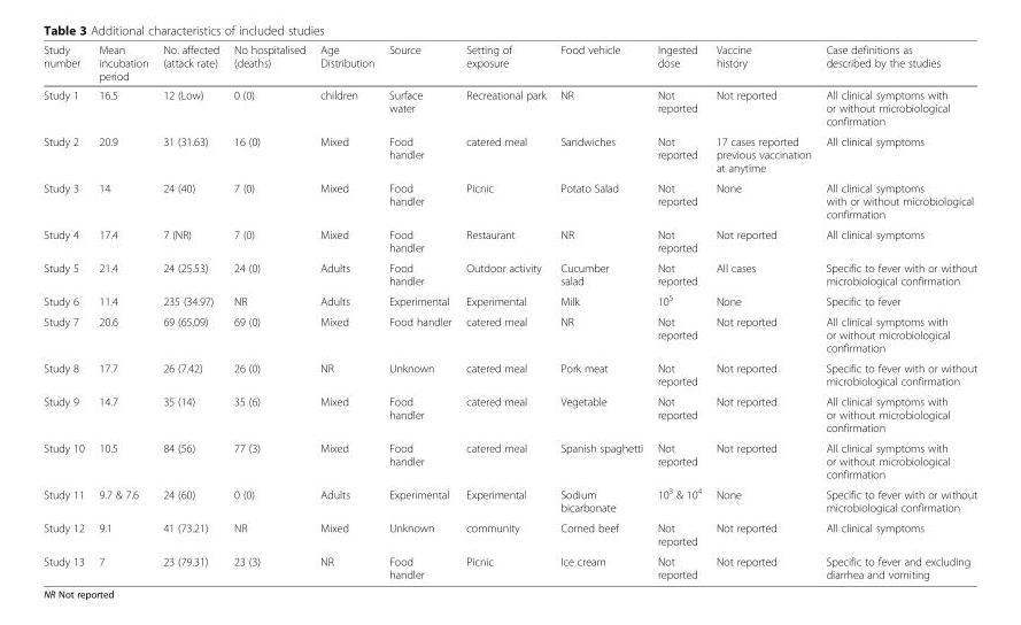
<table><thead><tr><td>Study number</td><td>Mean incubation period</td><td>No. affected (attack rate)</td><td>No hospitalised (deaths)</td><td>Age Distribution</td><td>Source</td><td>Setting of exposure</td><td>Food vehicle</td><td>Ingested dose</td><td>Vaccine history</td><td>Case definitions as described by the studies</td></tr></thead><tbody><tr><td>Study 1</td><td>16.5</td><td>12 (Low)</td><td>0 (0)</td><td>children</td><td>Surface water</td><td>Recreational park</td><td>NR</td><td>Not reported</td><td>Not reported</td><td>All clinical symptoms with or without microbiological confirmation</td></tr><tr><td>Study 2</td><td>20.9</td><td>31 (31.63)</td><td>16 (0)</td><td>Mixed</td><td>Food handler</td><td>catered meal</td><td>Sandwiches</td><td>Not reported</td><td>17 cases reported previous vaccination at anytime</td><td>All clinical symptoms</td></tr><tr><td>Study 3</td><td>14</td><td>24 (40)</td><td>7 (0)</td><td>Mixed</td><td>Food handler</td><td>Picnic</td><td>Potato Salad</td><td>Not reported</td><td>None</td><td>All clinical symptoms with or without microbiological confirmation</td></tr><tr><td>Study 4</td><td>17.4</td><td>7 (NR)</td><td>7 (0)</td><td>Mixed</td><td>Food handler</td><td>Restaurant</td><td>NR</td><td>Not reported</td><td>Not reported</td><td>All clinical symptoms</td></tr><tr><td>Study 5</td><td>21.4</td><td>24 (25.53)</td><td>24 (0)</td><td>Adults</td><td>Food handler</td><td>Outdoor activity</td><td>Cucumber salad</td><td>Not reported</td><td>All cases</td><td>Specific to fever with or without microbiological confirmation</td></tr><tr><td>Study 6</td><td>11.4</td><td>235 (34.97)</td><td>NR</td><td>Adults</td><td>Experimental</td><td>Experimental</td><td>Milk</td><td>10<sup>5</sup></td><td>None</td><td>Specific to fever</td></tr><tr><td>Study 7</td><td>20.6</td><td>69 (65.09)</td><td>69 (0)</td><td>Mixed</td><td>Food handler</td><td>catered meal</td><td>NR</td><td>Not reported</td><td>Not reported</td><td>All clinical symptoms with or without microbiological confirmation</td></tr><tr><td>Study 8</td><td>17.7</td><td>26 (7.42)</td><td>26 (0)</td><td>NR</td><td>Unknown</td><td>catered meal</td><td>Pork meat</td><td>Not reported</td><td>Not reported</td><td>Specific to fever with or without microbiological confirmation</td></tr><tr><td>Study 9</td><td>14.7</td><td>35 (14)</td><td>35 (6)</td><td>Mixed</td><td>Food handler</td><td>catered meal</td><td>Vegetable</td><td>Not reported</td><td>Not reported</td><td>All clinical symptoms with or without microbiological confirmation</td></tr><tr><td>Study 10</td><td>10.5</td><td>84 (56)</td><td>77 (3)</td><td>Mixed</td><td>Food handler</td><td>catered meal</td><td>Spanish spaghetti</td><td>Not reported</td><td>Not reported</td><td>All clinical symptoms with or without microbiological confirmation</td></tr><tr><td>Study 11</td><td>9.7 &amp; 7.6</td><td>24 (60)</td><td>0 (0)</td><td>Adults</td><td>Experimental</td><td>Experimental</td><td>Sodium bicarbonate</td><td>10<sup>3</sup> &amp; 10<sup>4</sup></td><td>None</td><td>Specific to fever with or without microbiological confirmation</td></tr><tr><td>Study 12</td><td>9.1</td><td>41 (73.21)</td><td>NR</td><td>Mixed</td><td>Unknown</td><td>community</td><td>Corned beef</td><td>Not reported</td><td>Not reported</td><td>All clinical symptoms</td></tr><tr><td>Study 13</td><td>7</td><td>23 (79.31)</td><td>23 (3)</td><td>NR</td><td>Food handler</td><td>Picnic</td><td>Ice cream</td><td>Not reported</td><td>Not reported</td><td>Specific to fever and excluding diarrhea and vomiting</td></tr></tbody></table>